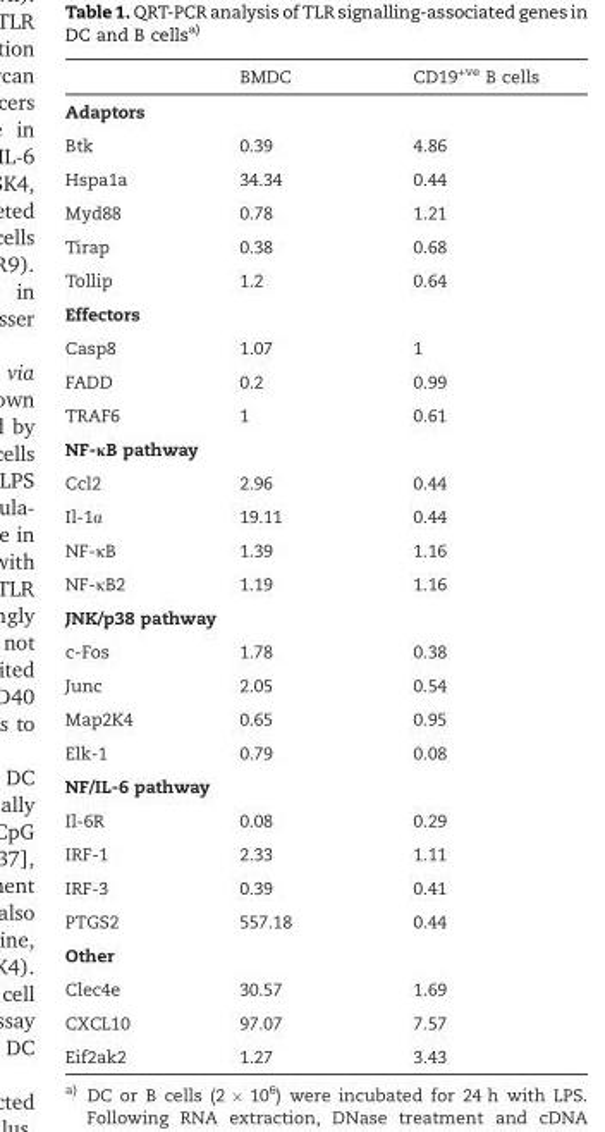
<table><thead><tr><td></td><td>BMDC</td><td>CD19<sup>+ve</sup> B cells</td></tr></thead><tbody><tr><td colspan="3">Adaptors</td></tr><tr><td>Btk</td><td>0.39</td><td>4.86</td></tr><tr><td>Hspa1a</td><td>34.34</td><td>0.44</td></tr><tr><td>Myd88</td><td>0.78</td><td>1.21</td></tr><tr><td>Tirap</td><td>0.38</td><td>0.68</td></tr><tr><td>Tollip</td><td>1.2</td><td>0.64</td></tr><tr><td colspan="3">Effectors</td></tr><tr><td>Casp8</td><td>1.07</td><td>1</td></tr><tr><td>FADD</td><td>0.2</td><td>0.99</td></tr><tr><td>TRAF6</td><td>1</td><td>0.61</td></tr><tr><td colspan="3">NF-κB pathway</td></tr><tr><td>Ccl2</td><td>2.96</td><td>0.44</td></tr><tr><td>Il-1α</td><td>19.11</td><td>0.44</td></tr><tr><td>NF-κB</td><td>1.39</td><td>1.16</td></tr><tr><td>NF-κB2</td><td>1.19</td><td>1.16</td></tr><tr><td colspan="3">JNK/p38 pathway</td></tr><tr><td>c-Fos</td><td>1.78</td><td>0.38</td></tr><tr><td>Junc</td><td>2.05</td><td>0.54</td></tr><tr><td>Map2K4</td><td>0.65</td><td>0.95</td></tr><tr><td>Elk-1</td><td>0.79</td><td>0.08</td></tr><tr><td colspan="3">NF/IL-6 pathway</td></tr><tr><td>Il-6R</td><td>0.08</td><td>0.29</td></tr><tr><td>IRF-1</td><td>2.33</td><td>1.11</td></tr><tr><td>IRF-3</td><td>0.39</td><td>0.41</td></tr><tr><td>PTGS2</td><td>557.18</td><td>0.44</td></tr><tr><td colspan="3">Other</td></tr><tr><td>Clec4e</td><td>30.57</td><td>1.69</td></tr><tr><td>CXCL10</td><td>97.07</td><td>7.57</td></tr><tr><td>Eif2ak2</td><td>1.27</td><td>3.43</td></tr></tbody></table>